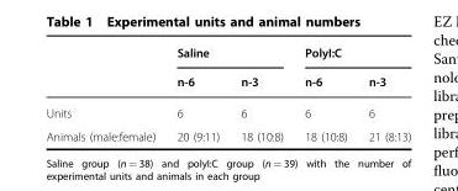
<table><thead><tr><td rowspan="2"></td><td colspan="2">Saline</td><td colspan="2">PolyI:C</td></tr><tr><td>n-6</td><td>n-3</td><td>n-6</td><td>n-3</td></tr></thead><tbody><tr><td>Units</td><td>6</td><td>6</td><td>6</td><td>6</td></tr><tr><td>Animals (male:female)</td><td>20 (9:11)</td><td>18 (10:8)</td><td>18 (10:8)</td><td>21 (8:13)</td></tr></tbody></table>